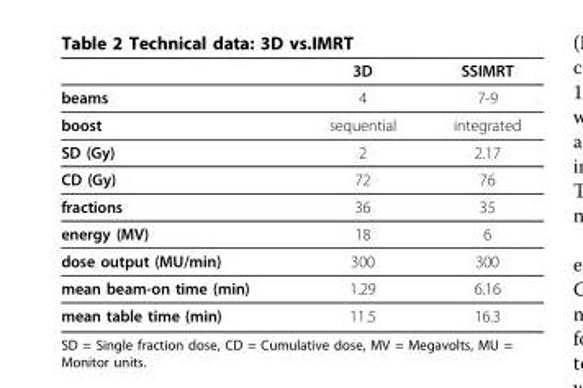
<table><thead><tr><td></td><td>3D</td><td>SSIMRT</td></tr></thead><tbody><tr><td>beams</td><td>4</td><td>7-9</td></tr><tr><td>boost</td><td>sequential</td><td>integrated</td></tr><tr><td>SD (Gy)</td><td>2</td><td>2.17</td></tr><tr><td>CD (Gy)</td><td>72</td><td>76</td></tr><tr><td>fractions</td><td>36</td><td>35</td></tr><tr><td>energy (MV)</td><td>18</td><td>6</td></tr><tr><td>dose output (MU/min)</td><td>300</td><td>300</td></tr><tr><td>mean beam-on time (min)</td><td>1.29</td><td>6.16</td></tr><tr><td>mean table time (min)</td><td>11.5</td><td>16.3</td></tr></tbody></table>